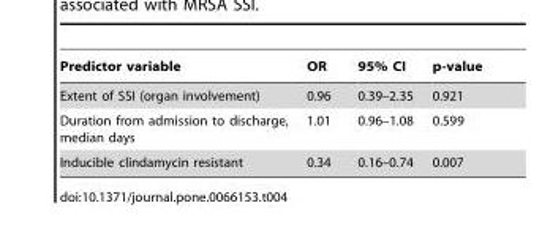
<table><thead><tr><td>Predictor variable</td><td>OR</td><td>95% CI</td><td>p-value</td></tr></thead><tbody><tr><td>Extent of SSI (organ involvement)</td><td>0.96</td><td>0.39–2.35</td><td>0.921</td></tr><tr><td>Duration from admission to discharge, median days</td><td>1.01</td><td>0.96–1.08</td><td>0.599</td></tr><tr><td>Inducible clindamycin resistant</td><td>0.34</td><td>0.16–0.74</td><td>0.007</td></tr></tbody></table>